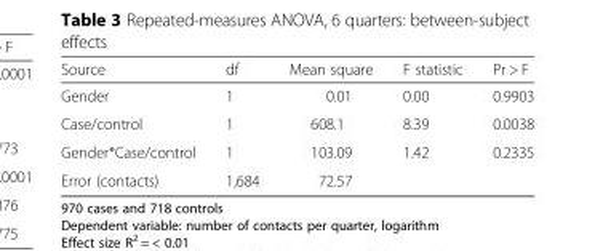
<table><thead><tr><td>Source</td><td>df</td><td>Mean square</td><td>F statistic</td><td>Pr &gt; F</td></tr></thead><tbody><tr><td>Gender</td><td>1</td><td>0.01</td><td>0.00</td><td>0.9903</td></tr><tr><td>Case/control</td><td>1</td><td>608.1</td><td>8.39</td><td>0.0038</td></tr><tr><td>Gender*Case/control</td><td>1</td><td>103.09</td><td>1.42</td><td>0.2335</td></tr><tr><td>Error (contacts)</td><td>1,684</td><td>72.57</td><td></td><td></td></tr></tbody></table>